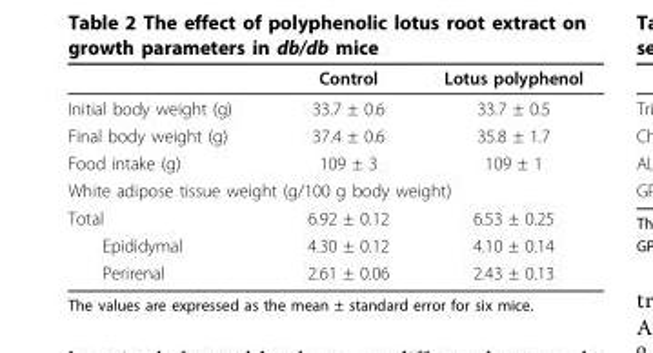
<table><thead><tr><td></td><td>Control</td><td>Lotus polyphenol</td></tr></thead><tbody><tr><td>Initial body weight (g)</td><td>33.7 ± 0.6</td><td>33.7 ± 0.5</td></tr><tr><td>Final body weight (g)</td><td>37.4 ± 0.6</td><td>35.8 ± 1.7</td></tr><tr><td>Food intake (g)</td><td>109 ± 3</td><td>109 ± 1</td></tr><tr><td colspan="3">White adipose tissue weight (g/100 g body weight)</td></tr><tr><td>Total</td><td>6.92 ± 0.12</td><td>6.53 ± 0.25</td></tr><tr><td>Epididymal</td><td>4.30 ± 0.12</td><td>4.10 ± 0.14</td></tr><tr><td>Perirenal</td><td>2.61 ± 0.06</td><td>2.43 ± 0.13</td></tr></tbody></table>